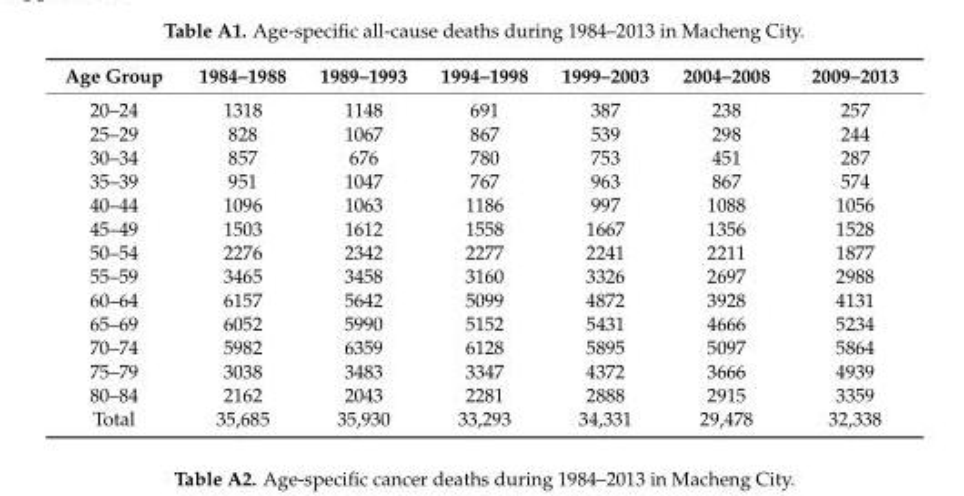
<table><thead><tr><td>Age Group</td><td>1984–1988</td><td>1989–1993</td><td>1994–1998</td><td>1999–2003</td><td>2004–2008</td><td>2009–2013</td></tr></thead><tbody><tr><td>20–24</td><td>1318</td><td>1148</td><td>691</td><td>387</td><td>238</td><td>257</td></tr><tr><td>25–29</td><td>828</td><td>1067</td><td>867</td><td>539</td><td>298</td><td>244</td></tr><tr><td>30–34</td><td>857</td><td>676</td><td>780</td><td>753</td><td>451</td><td>287</td></tr><tr><td>35–39</td><td>951</td><td>1047</td><td>767</td><td>963</td><td>867</td><td>574</td></tr><tr><td>40–44</td><td>1096</td><td>1063</td><td>1186</td><td>997</td><td>1088</td><td>1056</td></tr><tr><td>45–49</td><td>1503</td><td>1612</td><td>1558</td><td>1667</td><td>1356</td><td>1528</td></tr><tr><td>50–54</td><td>2276</td><td>2342</td><td>2277</td><td>2241</td><td>2211</td><td>1877</td></tr><tr><td>55–59</td><td>3465</td><td>3458</td><td>3160</td><td>3326</td><td>2697</td><td>2988</td></tr><tr><td>60–64</td><td>6157</td><td>5642</td><td>5099</td><td>4872</td><td>3928</td><td>4131</td></tr><tr><td>65–69</td><td>6052</td><td>5990</td><td>5152</td><td>5431</td><td>4666</td><td>5234</td></tr><tr><td>70–74</td><td>5982</td><td>6359</td><td>6128</td><td>5895</td><td>5097</td><td>5864</td></tr><tr><td>75–79</td><td>3038</td><td>3483</td><td>3347</td><td>4372</td><td>3666</td><td>4939</td></tr><tr><td>80–84</td><td>2162</td><td>2043</td><td>2281</td><td>2888</td><td>2915</td><td>3359</td></tr><tr><td>Total</td><td>35,685</td><td>35,930</td><td>33,293</td><td>34,331</td><td>29,478</td><td>32,338</td></tr></tbody></table>